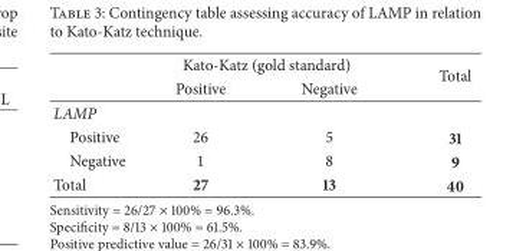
<table><thead><tr><td rowspan="2"></td><td colspan="2">Kato-Katz (gold standard)</td><td rowspan="2">Total</td></tr><tr><td>Positive</td><td>Negative</td></tr></thead><tbody><tr><td colspan="4">LAMP</td></tr><tr><td>Positive</td><td>26</td><td>5</td><td>31</td></tr><tr><td>Negative</td><td>1</td><td>8</td><td>9</td></tr><tr><td>Total</td><td>27</td><td>13</td><td>40</td></tr></tbody></table>